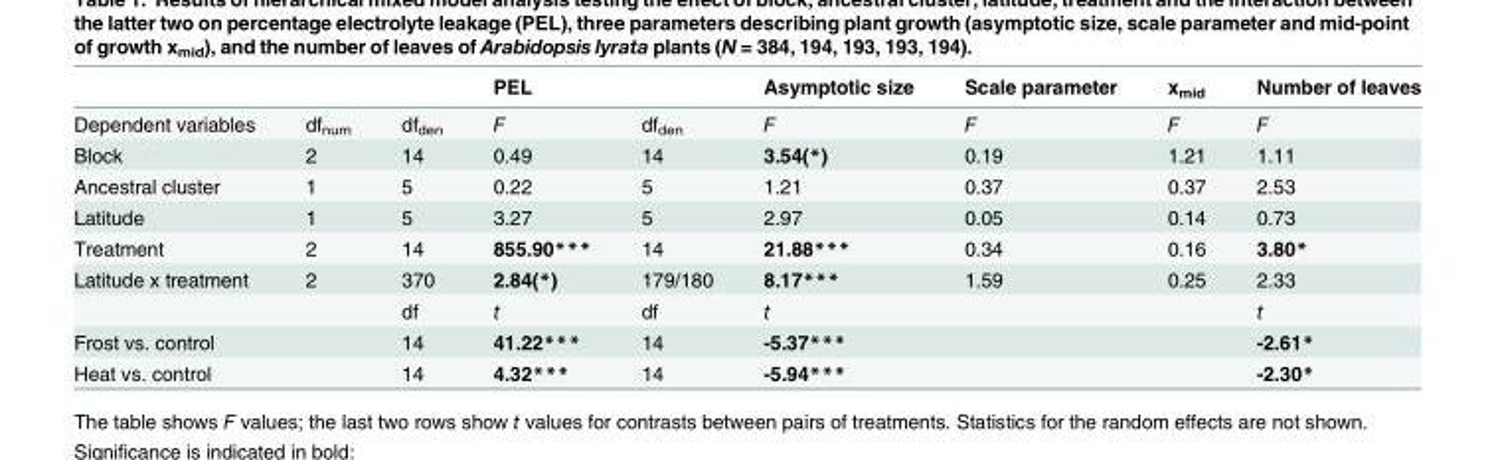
<table><thead><tr><td></td><td></td><td></td><td>PEL</td><td></td><td>Asymptotic size</td><td>Scale parameter</td><td>x<sub>mid</sub></td><td>Number of leaves</td></tr></thead><tbody><tr><td>Dependent variables</td><td>df<sub>num</sub></td><td>df<sub>den</sub></td><td>F</td><td>df<sub>den</sub></td><td>F</td><td>F</td><td>F</td><td>F</td></tr><tr><td>Block</td><td>2</td><td>14</td><td>0.49</td><td>14</td><td>3.54(*)</td><td>0.19</td><td>1.21</td><td>1.11</td></tr><tr><td>Ancestral cluster</td><td>1</td><td>5</td><td>0.22</td><td>5</td><td>1.21</td><td>0.37</td><td>0.37</td><td>2.53</td></tr><tr><td>Latitude</td><td>1</td><td>5</td><td>3.27</td><td>5</td><td>2.97</td><td>0.05</td><td>0.14</td><td>0.73</td></tr><tr><td>Treatment</td><td>2</td><td>14</td><td>855.90***</td><td>14</td><td>21.88***</td><td>0.34</td><td>0.16</td><td>3.80*</td></tr><tr><td rowspan="2">Latitude x treatment</td><td>2</td><td>370</td><td>2.84(*)</td><td>179/180</td><td>8.17***</td><td>1.59</td><td>0.25</td><td>2.33</td></tr><tr><td></td><td>df</td><td>t</td><td>df</td><td>t</td><td></td><td></td><td>t</td></tr><tr><td>Frost vs. control</td><td></td><td>14</td><td>41.22***</td><td>14</td><td>-5.37***</td><td></td><td></td><td>-2.61*</td></tr><tr><td>Heat vs. control</td><td></td><td>14</td><td>4.32***</td><td>14</td><td>-5.94***</td><td></td><td></td><td>-2.30*</td></tr></tbody></table>